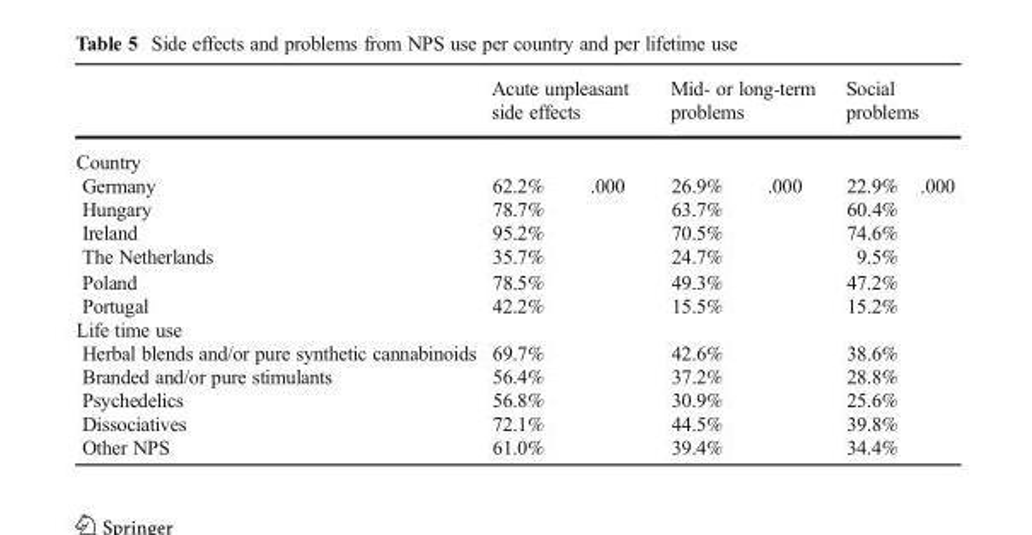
<table><thead><tr><td></td><td colspan="2">Acute unpleasant side effects</td><td colspan="2">Mid- or long-term problems</td><td colspan="2">Social problems</td></tr><tr><td colspan="7">Country</td></tr><tr><td>Germany</td><td>62.2%</td><td>.000</td><td>26.9%</td><td>.000</td><td>22.9%</td><td>.000</td></tr></thead><tbody><tr><td>Hungary</td><td>78.7%</td><td></td><td>63.7%</td><td></td><td>60.4%</td><td></td></tr><tr><td>Ireland</td><td>95.2%</td><td></td><td>70.5%</td><td></td><td>74.6%</td><td></td></tr><tr><td>The Netherlands</td><td>35.7%</td><td></td><td>24.7%</td><td></td><td>9.5%</td><td></td></tr><tr><td>Poland</td><td>78.5%</td><td></td><td>49.3%</td><td></td><td>47.2%</td><td></td></tr><tr><td>Portugal</td><td>42.2%</td><td></td><td>15.5%</td><td></td><td>15.2%</td><td></td></tr><tr><td colspan="7">Life time use</td></tr><tr><td>Herbal blends and/or pure synthetic cannabinoids</td><td>69.7%</td><td></td><td>42.6%</td><td></td><td>38.6%</td><td></td></tr><tr><td>Branded and/or pure stimulants</td><td>56.4%</td><td></td><td>37.2%</td><td></td><td>28.8%</td><td></td></tr><tr><td>Psychedelics</td><td>56.8%</td><td></td><td>30.9%</td><td></td><td>25.6%</td><td></td></tr><tr><td>Dissociatives</td><td>72.1%</td><td></td><td>44.5%</td><td></td><td>39.8%</td><td></td></tr><tr><td>Other NPS</td><td>61.0%</td><td></td><td>39.4%</td><td></td><td>34.4%</td><td></td></tr></tbody></table>